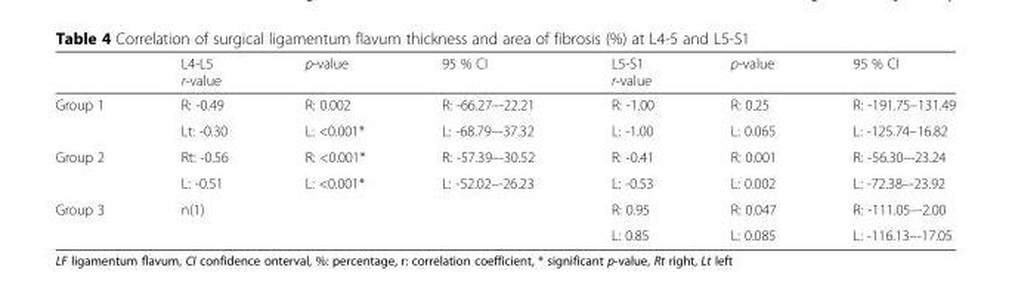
<table><thead><tr><td></td><td>L4-L5 r-value</td><td>p-value</td><td>95 % CI</td><td>L5-S1 r-value</td><td>p-value</td><td>95 % CI</td></tr></thead><tbody><tr><td rowspan="2">Group 1</td><td>R: -0.49</td><td>R: 0.002</td><td>R: -66.27–-22.21</td><td>R: -1.00</td><td>R: 0.25</td><td>R: -191.75–131.49</td></tr><tr><td>Lt: -0.30</td><td>L: &lt;0.001*</td><td>L: -68.79–-37.32</td><td>L: -1.00</td><td>L: 0.065</td><td>L: -125.74–16.82</td></tr><tr><td rowspan="2">Group 2</td><td>Rt: -0.56</td><td>R: &lt;0.001*</td><td>R: -57.39–-30.52</td><td>R: -0.41</td><td>R: 0.001</td><td>R: -56.30–-23.24</td></tr><tr><td>L: -0.51</td><td>L: &lt;0.001*</td><td>L: -52.02–-26.23</td><td>L: -0.53</td><td>L: 0.002</td><td>L: -72.38–-23.92</td></tr><tr><td rowspan="2">Group 3</td><td rowspan="2">n(1)</td><td rowspan="2"></td><td rowspan="2"></td><td>R: 0.95</td><td>R: 0.047</td><td>R: -111.05–-2.00</td></tr><tr><td>L: 0.85</td><td>L: 0.085</td><td>L: -116.13–-17.05</td></tr></tbody></table>